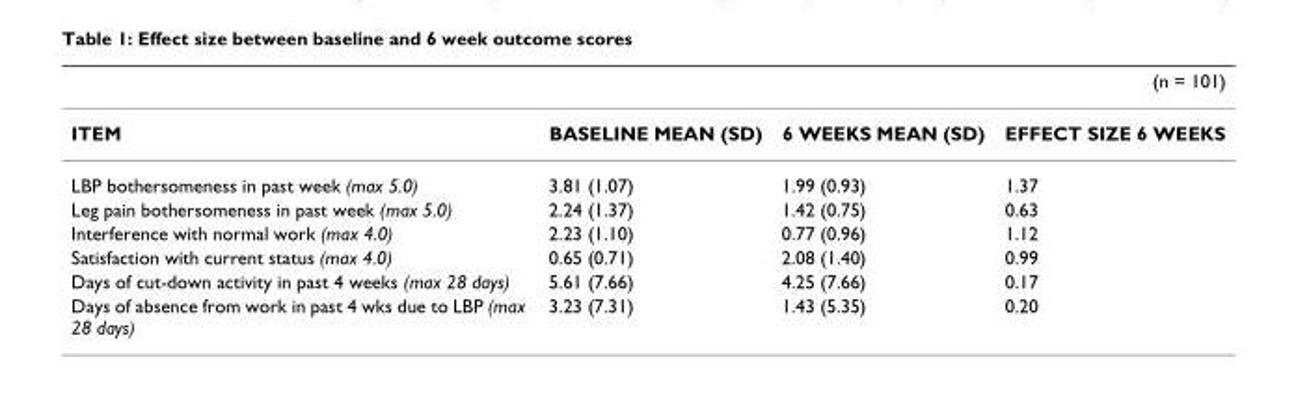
<table><thead><tr><td colspan="4">(n = 101)</td></tr><tr><td>ITEM</td><td>BASELINE MEAN (SD)</td><td>6 WEEKS MEAN (SD)</td><td>EFFECT SIZE 6 WEEKS</td></tr></thead><tbody><tr><td>LBP bothersomeness in past week (max 5.0)</td><td>3.81 (1.07)</td><td>1.99 (0.93)</td><td>1.37</td></tr><tr><td>Leg pain bothersomeness in past week (max 5.0)</td><td>2.24 (1.37)</td><td>1.42 (0.75)</td><td>0.63</td></tr><tr><td>Interference with normal work (max 4.0)</td><td>2.23 (1.10)</td><td>0.77 (0.96)</td><td>1.12</td></tr><tr><td>Satisfaction with current status (max 4.0)</td><td>0.65 (0.71)</td><td>2.08 (1.40)</td><td>0.99</td></tr><tr><td>Days of cut-down activity in past 4 weeks (max 28 days)</td><td>5.61 (7.66)</td><td>4.25 (7.66)</td><td>0.17</td></tr><tr><td>Days of absence from work in past 4 wks due to LBP (max 28 days)</td><td>3.23 (7.31)</td><td>1.43 (5.35)</td><td>0.20</td></tr></tbody></table>